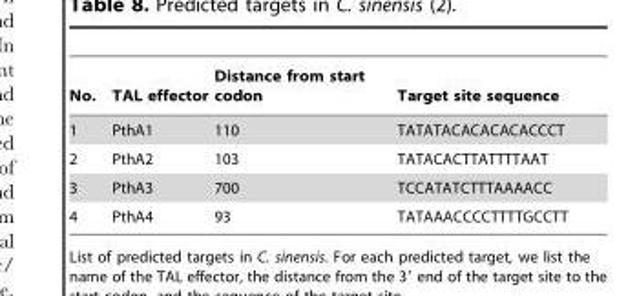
<table><thead><tr><td>No.</td><td>TAL effector</td><td>Distance from start codon</td><td>Target site sequence</td></tr></thead><tbody><tr><td>1</td><td>PthA1</td><td>110</td><td>TATATACACACACACCCT</td></tr><tr><td>2</td><td>PthA2</td><td>103</td><td>TATACACTTATTTTAAT</td></tr><tr><td>3</td><td>PthA3</td><td>700</td><td>TCCATATCTTTAAAACC</td></tr><tr><td>4</td><td>PthA4</td><td>93</td><td>TATAAACCCCTTTTGCCTT</td></tr></tbody></table>